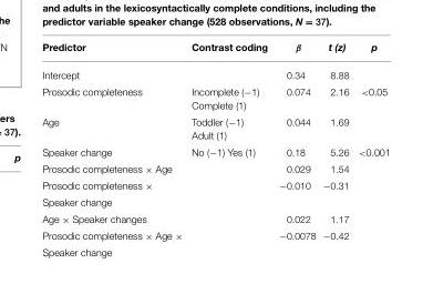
<table><thead><tr><td>Predictor</td><td>Contrast coding</td><td>β</td><td>t (z)</td><td>p</td></tr></thead><tbody><tr><td>Intercept</td><td></td><td>0.34</td><td>8.88</td><td></td></tr><tr><td>Prosodic completeness</td><td>Incomplete (−1) Complete (1)</td><td>0.074</td><td>2.16</td><td>&lt;0.05</td></tr><tr><td>Age</td><td>Toddler (−1) Adult (1)</td><td>0.044</td><td>1.69</td><td></td></tr><tr><td>Speaker change</td><td>No (−1) Yes (1)</td><td>0.18</td><td>5.26</td><td>&lt;0.001</td></tr><tr><td>Prosodic completeness × Age</td><td></td><td>0.029</td><td>1.54</td><td></td></tr><tr><td>Prosodic completeness × Speaker change</td><td></td><td>−0.010</td><td>−0.31</td><td></td></tr><tr><td>Age × Speaker changes</td><td></td><td>0.022</td><td>1.17</td><td></td></tr><tr><td>Prosodic completeness × Age ×</td><td></td><td>−0.0078</td><td>−0.42</td><td></td></tr></tbody></table>